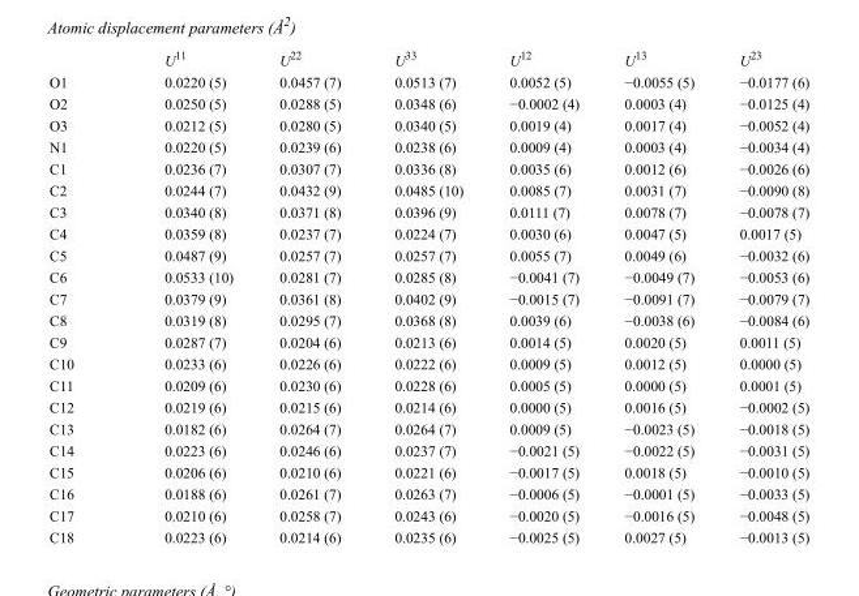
<table><thead><tr><td></td><td>U<sup>11</sup></td><td>U<sup>22</sup></td><td>U<sup>33</sup></td><td>U<sup>12</sup></td><td>U<sup>13</sup></td><td>U<sup>23</sup></td></tr></thead><tbody><tr><td>O1</td><td>0.0220 (5)</td><td>0.0457 (7)</td><td>0.0513 (7)</td><td>0.0052 (5)</td><td>−0.0055 (5)</td><td>−0.0177 (6)</td></tr><tr><td>O2</td><td>0.0250 (5)</td><td>0.0288 (5)</td><td>0.0348 (6)</td><td>−0.0002 (4)</td><td>0.0003 (4)</td><td>−0.0125 (4)</td></tr><tr><td>O3</td><td>0.0212 (5)</td><td>0.0280 (5)</td><td>0.0340 (5)</td><td>0.0019 (4)</td><td>0.0017 (4)</td><td>−0.0052 (4)</td></tr><tr><td>N1</td><td>0.0220 (5)</td><td>0.0239 (6)</td><td>0.0238 (6)</td><td>0.0009 (4)</td><td>0.0003 (4)</td><td>−0.0034 (4)</td></tr><tr><td>C1</td><td>0.0236 (7)</td><td>0.0307 (7)</td><td>0.0336 (8)</td><td>0.0035 (6)</td><td>0.0012 (6)</td><td>−0.0026 (6)</td></tr><tr><td>C2</td><td>0.0244 (7)</td><td>0.0432 (9)</td><td>0.0485 (10)</td><td>0.0085 (7)</td><td>0.0031 (7)</td><td>−0.0090 (8)</td></tr><tr><td>C3</td><td>0.0340 (8)</td><td>0.0371 (8)</td><td>0.0396 (9)</td><td>0.0111 (7)</td><td>0.0078 (7)</td><td>−0.0078 (7)</td></tr><tr><td>C4</td><td>0.0359 (8)</td><td>0.0237 (7)</td><td>0.0224 (7)</td><td>0.0030 (6)</td><td>0.0047 (5)</td><td>0.0017 (5)</td></tr><tr><td>C5</td><td>0.0487 (9)</td><td>0.0257 (7)</td><td>0.0257 (7)</td><td>0.0055 (7)</td><td>0.0049 (6)</td><td>−0.0032 (6)</td></tr><tr><td>C6</td><td>0.0533 (10)</td><td>0.0281 (7)</td><td>0.0285 (8)</td><td>−0.0041 (7)</td><td>−0.0049 (7)</td><td>−0.0053 (6)</td></tr><tr><td>C7</td><td>0.0379 (9)</td><td>0.0361 (8)</td><td>0.0402 (9)</td><td>−0.0015 (7)</td><td>−0.0091 (7)</td><td>−0.0079 (7)</td></tr><tr><td>C8</td><td>0.0319 (8)</td><td>0.0295 (7)</td><td>0.0368 (8)</td><td>0.0039 (6)</td><td>−0.0038 (6)</td><td>−0.0084 (6)</td></tr><tr><td>C9</td><td>0.0287 (7)</td><td>0.0204 (6)</td><td>0.0213 (6)</td><td>0.0014 (5)</td><td>0.0020 (5)</td><td>0.0011 (5)</td></tr><tr><td>C10</td><td>0.0233 (6)</td><td>0.0226 (6)</td><td>0.0222 (6)</td><td>0.0009 (5)</td><td>0.0012 (5)</td><td>0.0000 (5)</td></tr><tr><td>C11</td><td>0.0209 (6)</td><td>0.0230 (6)</td><td>0.0228 (6)</td><td>0.0005 (5)</td><td>0.0000 (5)</td><td>0.0001 (5)</td></tr><tr><td>C12</td><td>0.0219 (6)</td><td>0.0215 (6)</td><td>0.0214 (6)</td><td>0.0000 (5)</td><td>0.0016 (5)</td><td>−0.0002 (5)</td></tr><tr><td>C13</td><td>0.0182 (6)</td><td>0.0264 (7)</td><td>0.0264 (7)</td><td>0.0009 (5)</td><td>−0.0023 (5)</td><td>−0.0018 (5)</td></tr><tr><td>C14</td><td>0.0223 (6)</td><td>0.0246 (6)</td><td>0.0237 (7)</td><td>−0.0021 (5)</td><td>−0.0022 (5)</td><td>−0.0031 (5)</td></tr><tr><td>C15</td><td>0.0206 (6)</td><td>0.0210 (6)</td><td>0.0221 (6)</td><td>−0.0017 (5)</td><td>0.0018 (5)</td><td>−0.0010 (5)</td></tr><tr><td>C16</td><td>0.0188 (6)</td><td>0.0261 (7)</td><td>0.0263 (7)</td><td>−0.0006 (5)</td><td>−0.0001 (5)</td><td>−0.0033 (5)</td></tr><tr><td>C17</td><td>0.0210 (6)</td><td>0.0258 (7)</td><td>0.0243 (6)</td><td>−0.0020 (5)</td><td>−0.0016 (5)</td><td>−0.0048 (5)</td></tr><tr><td>C18</td><td>0.0223 (6)</td><td>0.0214 (6)</td><td>0.0235 (6)</td><td>−0.0025 (5)</td><td>0.0027 (5)</td><td>−0.0013 (5)</td></tr></tbody></table>